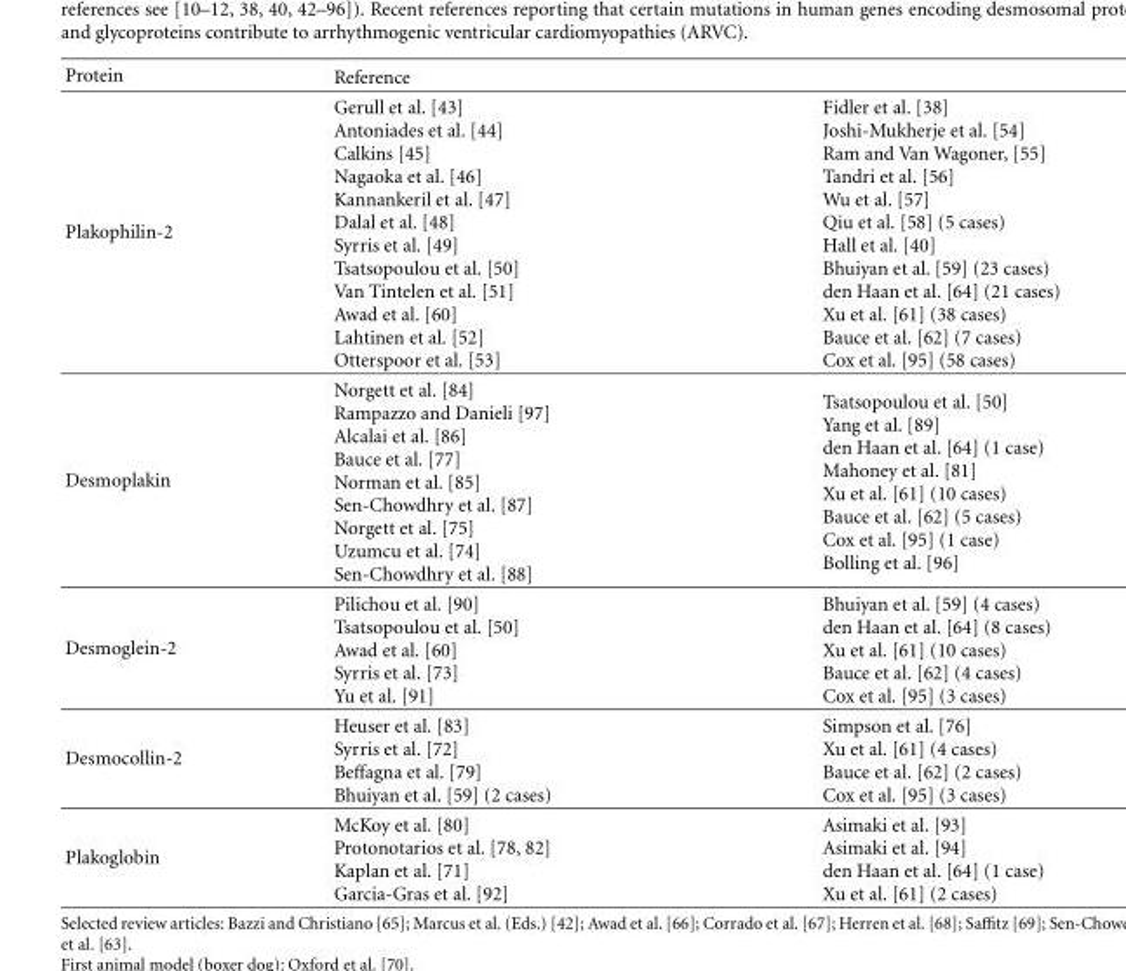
<table><thead><tr><td>Protein</td><td>Reference</td><td></td></tr></thead><tbody><tr><td>Plakophilin-2</td><td>Gerull et al. [43] Antoniades et al. [44] Calkins [45] Nagaoka et al. [46] Kannankeril et al. [47] Dalal et al. [48] Syrris et al. [49] Tsatsopoulou et al. [50] Van Tintelen et al. [51] Awad et al. [60] Lahtinen et al. [52] Otterspoor et al. [53]</td><td>Fidler et al. [38] Joshi-Mukherje et al. [54] Ram and Van Wagoner, [55] Tandri et al. [56] Wu et al. [57] Qiu et al. [58] (5 cases) Hall et al. [40] Bhuiyan et al. [59] (23 cases) den Haan et al. [64] (21 cases) Xu et al. [61] (38 cases) Bauce et al. [62] (7 cases) Cox et al. [95] (58 cases)</td></tr><tr><td>Desmoplakin</td><td>Norgett et al. [84] Rampazzo and Danieli [97] Alcalai et al. [86] Bauce et al. [77] Norman et al. [85] Sen-Chowdhry et al. [87] Norgett et al. [75] Uzumcu et al. [74] Sen-Chowdhry et al. [88]</td><td>Tsatsopoulou et al. [50] Yang et al. [89] den Haan et al. [64] (1 case) Mahoney et al. [81] Xu et al. [61] (10 cases) Bauce et al. [62] (5 cases) Cox et al. [95] (1 case) Bolling et al. [96]</td></tr><tr><td>Desmoglein-2</td><td>Pilichou et al. [90] Tsatsopoulou et al. [50] Awad et al. [60] Syrris et al. [73] Yu et al. [91]</td><td>Bhuiyan et al. [59] (4 cases) den Haan et al. [64] (8 cases) Xu et al. [61] (10 cases) Bauce et al. [62] (4 cases) Cox et al. [95] (3 cases)</td></tr><tr><td>Desmocollin-2</td><td>Heuser et al. [83] Syrris et al. [72] Beffagna et al. [79] Bhuiyan et al. [59] (2 cases)</td><td>Simpson et al. [76] Xu et al. [61] (4 cases) Bauce et al. [62] (2 cases) Cox et al. [95] (3 cases)</td></tr><tr><td>Plakoglobin</td><td>McKoy et al. [80] Protonotarios et al. [78, 82] Kaplan et al. [71] Garcia-Gras et al. [92]</td><td>Asimaki et al. [93] Asimaki et al. [94] den Haan et al. [64] (1 case) Xu et al. [61] (2 cases)</td></tr></tbody></table>